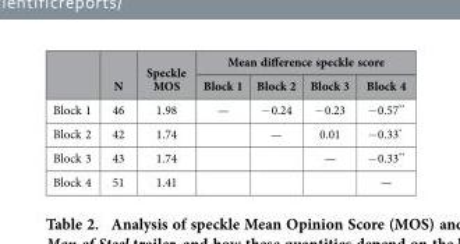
<table><thead><tr><td rowspan="2"></td><td rowspan="2">N</td><td rowspan="2">Speckle MOS</td><td colspan="4">Mean difference speckle score</td></tr><tr><td>Block 1</td><td>Block 2</td><td>Block 3</td><td>Block 4</td></tr></thead><tbody><tr><td>Block 1</td><td>46</td><td>1.98</td><td>—</td><td>− 0.24</td><td>− 0.23</td><td>− 0.57**</td></tr><tr><td>Block 2</td><td>42</td><td>1.74</td><td></td><td>—</td><td>0.01</td><td>− 0.33*</td></tr><tr><td>Block 3</td><td>43</td><td>1.74</td><td></td><td></td><td>—</td><td>− 0.33**</td></tr><tr><td>Block 4</td><td>51</td><td>1.41</td><td></td><td></td><td></td><td>—</td></tr></tbody></table>